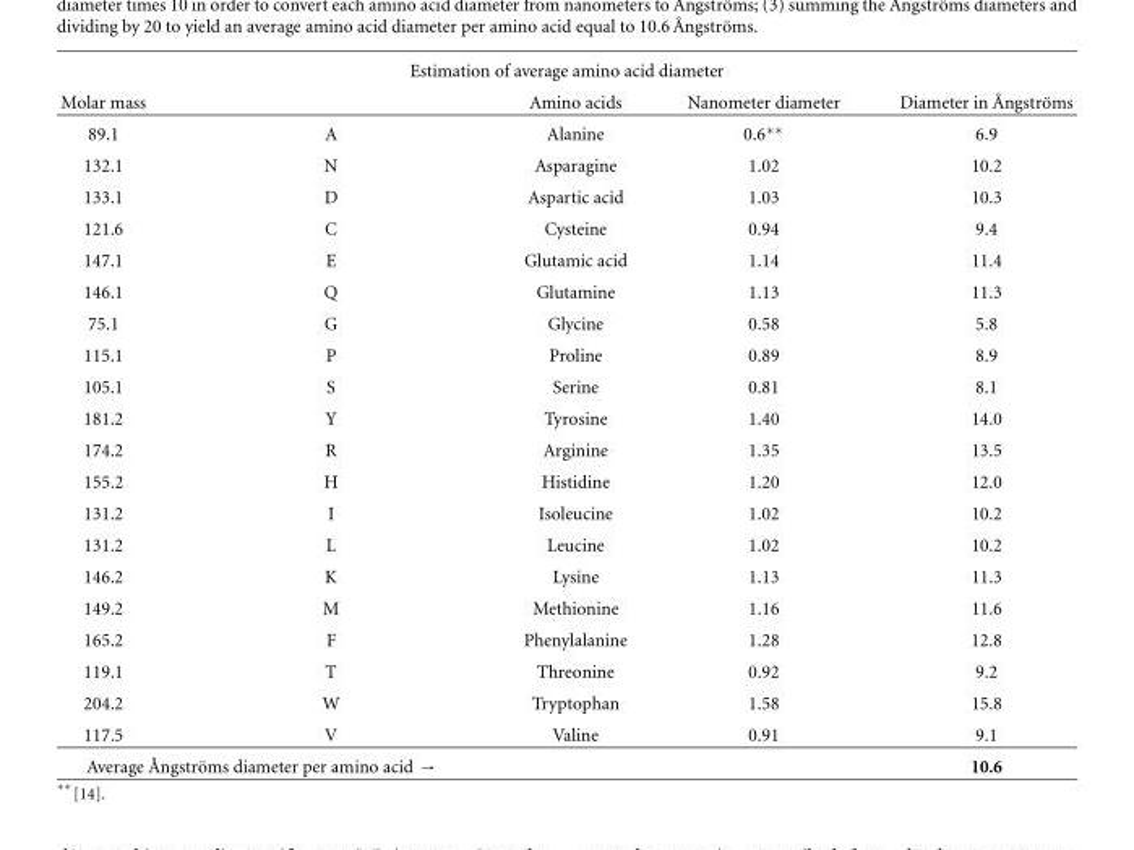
<table><thead><tr><td colspan="5">Estimation of average amino acid diameter</td></tr><tr><td>Molar mass</td><td></td><td>Amino acids</td><td>Nanometer diameter</td><td>Diameter in ˚Angstr¨oms</td></tr></thead><tbody><tr><td>89.1</td><td>A</td><td>Alanine</td><td>0.6∗∗</td><td>6.9</td></tr><tr><td>132.1</td><td>N</td><td>Asparagine</td><td>1.02</td><td>10.2</td></tr><tr><td>133.1</td><td>D</td><td>Aspartic acid</td><td>1.03</td><td>10.3</td></tr><tr><td>121.6</td><td>C</td><td>Cysteine</td><td>0.94</td><td>9.4</td></tr><tr><td>147.1</td><td>E</td><td>Glutamic acid</td><td>1.14</td><td>11.4</td></tr><tr><td>146.1</td><td>Q</td><td>Glutamine</td><td>1.13</td><td>11.3</td></tr><tr><td>75.1</td><td>G</td><td>Glycine</td><td>0.58</td><td>5.8</td></tr><tr><td>115.1</td><td>P</td><td>Proline</td><td>0.89</td><td>8.9</td></tr><tr><td>105.1</td><td>S</td><td>Serine</td><td>0.81</td><td>8.1</td></tr><tr><td>181.2</td><td>Y</td><td>Tyrosine</td><td>1.40</td><td>14.0</td></tr><tr><td>174.2</td><td>R</td><td>Arginine</td><td>1.35</td><td>13.5</td></tr><tr><td>155.2</td><td>H</td><td>Histidine</td><td>1.20</td><td>12.0</td></tr><tr><td>131.2</td><td>I</td><td>Isoleucine</td><td>1.02</td><td>10.2</td></tr><tr><td>131.2</td><td>L</td><td>Leucine</td><td>1.02</td><td>10.2</td></tr><tr><td>146.2</td><td>K</td><td>Lysine</td><td>1.13</td><td>11.3</td></tr><tr><td>149.2</td><td>M</td><td>Methionine</td><td>1.16</td><td>11.6</td></tr><tr><td>165.2</td><td>F</td><td>Phenylalanine</td><td>1.28</td><td>12.8</td></tr><tr><td>119.1</td><td>T</td><td>Threonine</td><td>0.92</td><td>9.2</td></tr><tr><td>204.2</td><td>W</td><td>Tryptophan</td><td>1.58</td><td>15.8</td></tr><tr><td>117.5</td><td>V</td><td>Valine</td><td>0.91</td><td>9.1</td></tr><tr><td colspan="2">Average ˚Angstr¨oms diameter per amino acid →</td><td></td><td></td><td>10.6</td></tr></tbody></table>